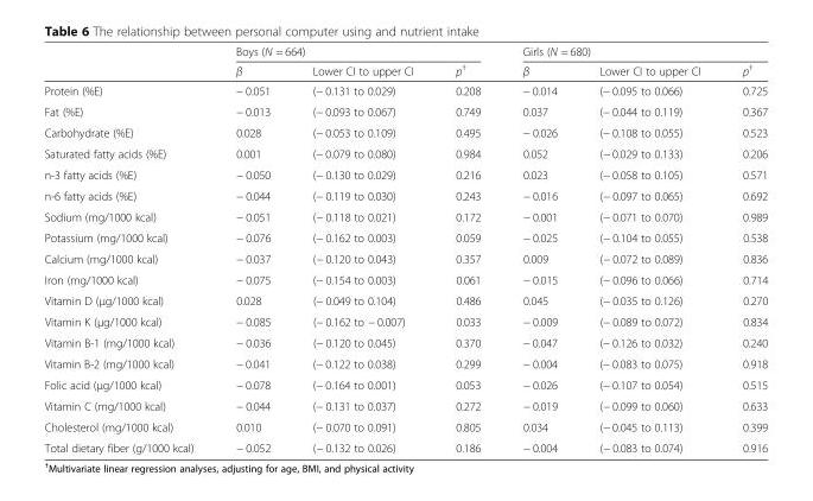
<table><thead><tr><td rowspan="2"></td><td colspan="3">Boys (N = 664)</td><td colspan="3">Girls (N = 680)</td></tr><tr><td>β</td><td>Lower CI to upper CI</td><td>p<sup>†</sup></td><td>β</td><td>Lower CI to upper CI</td><td>p<sup>†</sup></td></tr></thead><tbody><tr><td>Protein (%E)</td><td>− 0.051</td><td>(− 0.131 to 0.029)</td><td>0.208</td><td>− 0.014</td><td>(− 0.095 to 0.066)</td><td>0.725</td></tr><tr><td>Fat (%E)</td><td>− 0.013</td><td>(− 0.093 to 0.067)</td><td>0.749</td><td>0.037</td><td>(− 0.044 to 0.119)</td><td>0.367</td></tr><tr><td>Carbohydrate (%E)</td><td>0.028</td><td>(− 0.053 to 0.109)</td><td>0.495</td><td>− 0.026</td><td>(− 0.108 to 0.055)</td><td>0.523</td></tr><tr><td>Saturated fatty acids (%E)</td><td>0.001</td><td>(− 0.079 to 0.080)</td><td>0.984</td><td>0.052</td><td>(− 0.029 to 0.133)</td><td>0.206</td></tr><tr><td>n-3 fatty acids (%E)</td><td>− 0.050</td><td>(− 0.130 to 0.029)</td><td>0.216</td><td>0.023</td><td>(− 0.058 to 0.105)</td><td>0.571</td></tr><tr><td>n-6 fatty acids (%E)</td><td>− 0.044</td><td>(− 0.119 to 0.030)</td><td>0.243</td><td>− 0.016</td><td>(− 0.097 to 0.065)</td><td>0.692</td></tr><tr><td>Sodium (mg/1000 kcal)</td><td>− 0.051</td><td>(− 0.118 to 0.021)</td><td>0.172</td><td>− 0.001</td><td>(− 0.071 to 0.070)</td><td>0.989</td></tr><tr><td>Potassium (mg/1000 kcal)</td><td>− 0.076</td><td>(− 0.162 to 0.003)</td><td>0.059</td><td>− 0.025</td><td>(− 0.104 to 0.055)</td><td>0.538</td></tr><tr><td>Calcium (mg/1000 kcal)</td><td>− 0.037</td><td>(− 0.120 to 0.043)</td><td>0.357</td><td>0.009</td><td>(− 0.072 to 0.089)</td><td>0.836</td></tr><tr><td>Iron (mg/1000 kcal)</td><td>− 0.075</td><td>(− 0.154 to 0.003)</td><td>0.061</td><td>− 0.015</td><td>(− 0.096 to 0.066)</td><td>0.714</td></tr><tr><td>Vitamin D (μg/1000 kcal)</td><td>0.028</td><td>(− 0.049 to 0.104)</td><td>0.486</td><td>0.045</td><td>(− 0.035 to 0.126)</td><td>0.270</td></tr><tr><td>Vitamin K (μg/1000 kcal)</td><td>− 0.085</td><td>(− 0.162 to − 0.007)</td><td>0.033</td><td>− 0.009</td><td>(− 0.089 to 0.072)</td><td>0.834</td></tr><tr><td>Vitamin B-1 (mg/1000 kcal)</td><td>− 0.036</td><td>(− 0.120 to 0.045)</td><td>0.370</td><td>− 0.047</td><td>(− 0.126 to 0.032)</td><td>0.240</td></tr><tr><td>Vitamin B-2 (mg/1000 kcal)</td><td>− 0.041</td><td>(− 0.122 to 0.038)</td><td>0.299</td><td>− 0.004</td><td>(− 0.083 to 0.075)</td><td>0.918</td></tr><tr><td>Folic acid (μg/1000 kcal)</td><td>− 0.078</td><td>(− 0.164 to 0.001)</td><td>0.053</td><td>− 0.026</td><td>(− 0.107 to 0.054)</td><td>0.515</td></tr><tr><td>Vitamin C (mg/1000 kcal)</td><td>− 0.044</td><td>(− 0.131 to 0.037)</td><td>0.272</td><td>− 0.019</td><td>(− 0.099 to 0.060)</td><td>0.633</td></tr><tr><td>Cholesterol (mg/1000 kcal)</td><td>0.010</td><td>(− 0.070 to 0.091)</td><td>0.805</td><td>0.034</td><td>(− 0.045 to 0.113)</td><td>0.399</td></tr><tr><td>Total dietary fiber (g/1000 kcal)</td><td>− 0.052</td><td>(− 0.132 to 0.026)</td><td>0.186</td><td>− 0.004</td><td>(− 0.083 to 0.074)</td><td>0.916</td></tr></tbody></table>